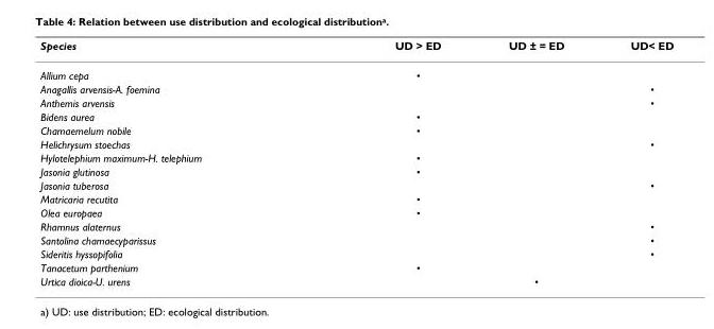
<table><thead><tr><td>Species</td><td>UD &gt; ED</td><td>UD ± = ED</td><td>UD&lt; ED</td></tr></thead><tbody><tr><td>Allium cepa</td><td>•</td><td></td><td></td></tr><tr><td>Anagallis arvensis-A. foemina</td><td></td><td></td><td>•</td></tr><tr><td>Anthemis arvensis</td><td></td><td></td><td>•</td></tr><tr><td>Bidens aurea</td><td>•</td><td></td><td></td></tr><tr><td>Chamaemelum nobile</td><td>•</td><td></td><td></td></tr><tr><td>Helichrysum stoechas</td><td></td><td></td><td>•</td></tr><tr><td>Hylotelephium maximum-H. telephium</td><td>•</td><td></td><td></td></tr><tr><td>Jasonia glutinosa</td><td>•</td><td></td><td></td></tr><tr><td>Jasonia tuberosa</td><td></td><td></td><td>•</td></tr><tr><td>Matricaria recutita</td><td>•</td><td></td><td></td></tr><tr><td>Olea europaea</td><td>•</td><td></td><td></td></tr><tr><td>Rhamnus alaternus</td><td></td><td></td><td>•</td></tr><tr><td>Santolina chamaecyparissus</td><td></td><td></td><td>•</td></tr><tr><td>Sideritis hyssopifolia</td><td></td><td></td><td>•</td></tr><tr><td>Tanacetum parthenium</td><td>•</td><td></td><td></td></tr><tr><td>Urtica dioica-U. urens</td><td></td><td>•</td><td></td></tr></tbody></table>